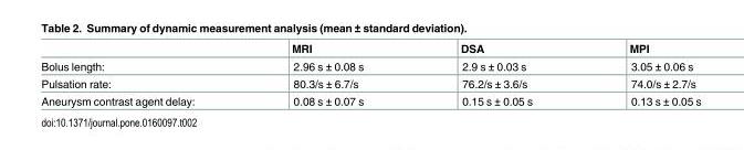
<table><thead><tr><td></td><td>MRI</td><td>DSA</td><td>MPI</td></tr></thead><tbody><tr><td>Bolus length:</td><td>2.96 s ± 0.08 s</td><td>2.9 s ± 0.03 s</td><td>3.05 ± 0.06 s</td></tr><tr><td>Pulsation rate:</td><td>80.3/s ± 6.7/s</td><td>76.2/s ± 3.6/s</td><td>74.0/s ± 2.7/s</td></tr><tr><td>Aneurysm contrast agent delay:</td><td>0.08 s ± 0.07 s</td><td>0.15 s ± 0.05 s</td><td>0.13 s ± 0.05 s</td></tr></tbody></table>